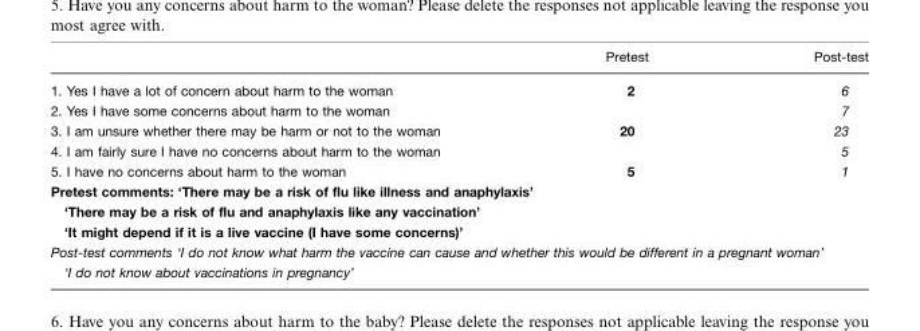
<table><thead><tr><td></td><td>Pretest</td><td>Post-test</td></tr></thead><tbody><tr><td>1. Yes I have a lot of concern about harm to the woman</td><td>2</td><td>6</td></tr><tr><td>2. Yes I have some concerns about harm to the woman</td><td></td><td>7</td></tr><tr><td>3. I am unsure whether there may be harm or not to the woman</td><td>20</td><td>23</td></tr><tr><td>4. I am fairly sure I have no concerns about harm to the woman</td><td></td><td>5</td></tr><tr><td>5. I have no concerns about harm to the woman</td><td>5</td><td>1</td></tr><tr><td colspan="3">Pretest comments: ‘There may be a risk of flu like illness and anaphylaxis’ ‘There may be a risk of flu and anaphylaxis like any vaccination’ ‘It might depend if it is a live vaccine (I have some concerns)’</td></tr><tr><td colspan="3">Post-test comments ‘I do not know what harm the vaccine can cause and whether this would be different in a pregnant woman’ ‘I do not know about vaccinations in pregnancy’</td></tr></tbody></table>